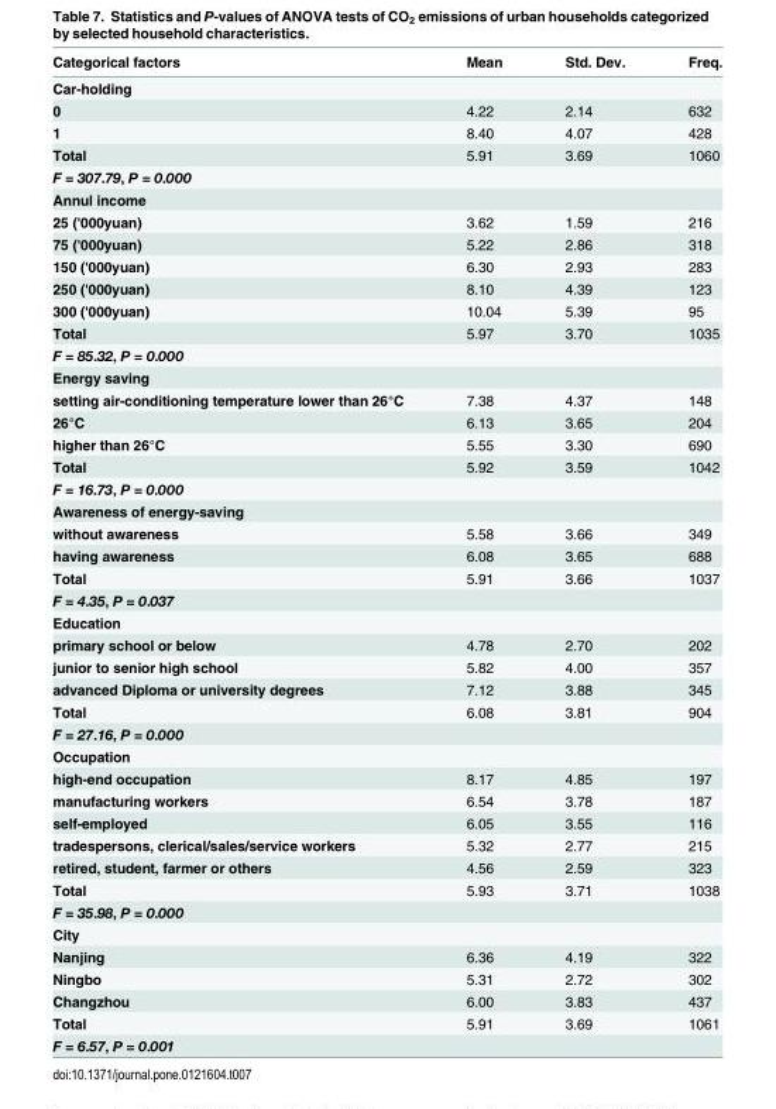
<table><thead><tr><td>Categorical factors</td><td>Mean</td><td>Std. Dev.</td><td>Freq.</td></tr></thead><tbody><tr><td colspan="4">Car-holding</td></tr><tr><td>0</td><td>4.22</td><td>2.14</td><td>632</td></tr><tr><td>1</td><td>8.40</td><td>4.07</td><td>428</td></tr><tr><td>Total</td><td>5.91</td><td>3.69</td><td>1060</td></tr><tr><td colspan="4">F = 307.79, P = 0.000</td></tr><tr><td colspan="4">Annul income</td></tr><tr><td>25 (&#x27;000yuan)</td><td>3.62</td><td>1.59</td><td>216</td></tr><tr><td>75 (&#x27;000yuan)</td><td>5.22</td><td>2.86</td><td>318</td></tr><tr><td>150 (&#x27;000yuan)</td><td>6.30</td><td>2.93</td><td>283</td></tr><tr><td>250 (&#x27;000yuan)</td><td>8.10</td><td>4.39</td><td>123</td></tr><tr><td>300 (&#x27;000yuan)</td><td>10.04</td><td>5.39</td><td>95</td></tr><tr><td>Total</td><td>5.97</td><td>3.70</td><td>1035</td></tr><tr><td colspan="4">F = 85.32, P = 0.000</td></tr><tr><td colspan="4">Energy saving</td></tr><tr><td>setting air-conditioning temperature lower than 26°C</td><td>7.38</td><td>4.37</td><td>148</td></tr><tr><td>26°C</td><td>6.13</td><td>3.65</td><td>204</td></tr><tr><td>higher than 26°C</td><td>5.55</td><td>3.30</td><td>690</td></tr><tr><td>Total</td><td>5.92</td><td>3.59</td><td>1042</td></tr><tr><td colspan="4">F = 16.73, P = 0.000</td></tr><tr><td colspan="4">Awareness of energy-saving</td></tr><tr><td>without awareness</td><td>5.58</td><td>3.66</td><td>349</td></tr><tr><td>having awareness</td><td>6.08</td><td>3.65</td><td>688</td></tr><tr><td>Total</td><td>5.91</td><td>3.66</td><td>1037</td></tr><tr><td colspan="4">F = 4.35, P = 0.037</td></tr><tr><td colspan="4">Education</td></tr><tr><td>primary school or below</td><td>4.78</td><td>2.70</td><td>202</td></tr><tr><td>junior to senior high school</td><td>5.82</td><td>4.00</td><td>357</td></tr><tr><td>advanced Diploma or university degrees</td><td>7.12</td><td>3.88</td><td>345</td></tr><tr><td>Total</td><td>6.08</td><td>3.81</td><td>904</td></tr><tr><td colspan="4">F = 27.16, P = 0.000</td></tr><tr><td colspan="4">Occupation</td></tr><tr><td>high-end occupation</td><td>8.17</td><td>4.85</td><td>197</td></tr><tr><td>manufacturing workers</td><td>6.54</td><td>3.78</td><td>187</td></tr><tr><td>self-employed</td><td>6.05</td><td>3.55</td><td>116</td></tr><tr><td>tradespersons, clerical/sales/service workers</td><td>5.32</td><td>2.77</td><td>215</td></tr><tr><td>retired, student, farmer or others</td><td>4.56</td><td>2.59</td><td>323</td></tr><tr><td>Total</td><td>5.93</td><td>3.71</td><td>1038</td></tr><tr><td colspan="4">F = 35.98, P = 0.000</td></tr><tr><td colspan="4">City</td></tr><tr><td>Nanjing</td><td>6.36</td><td>4.19</td><td>322</td></tr><tr><td>Ningbo</td><td>5.31</td><td>2.72</td><td>302</td></tr><tr><td>Changzhou</td><td>6.00</td><td>3.83</td><td>437</td></tr><tr><td>Total</td><td>5.91</td><td>3.69</td><td>1061</td></tr><tr><td colspan="4">F = 6.57, P = 0.001</td></tr></tbody></table>